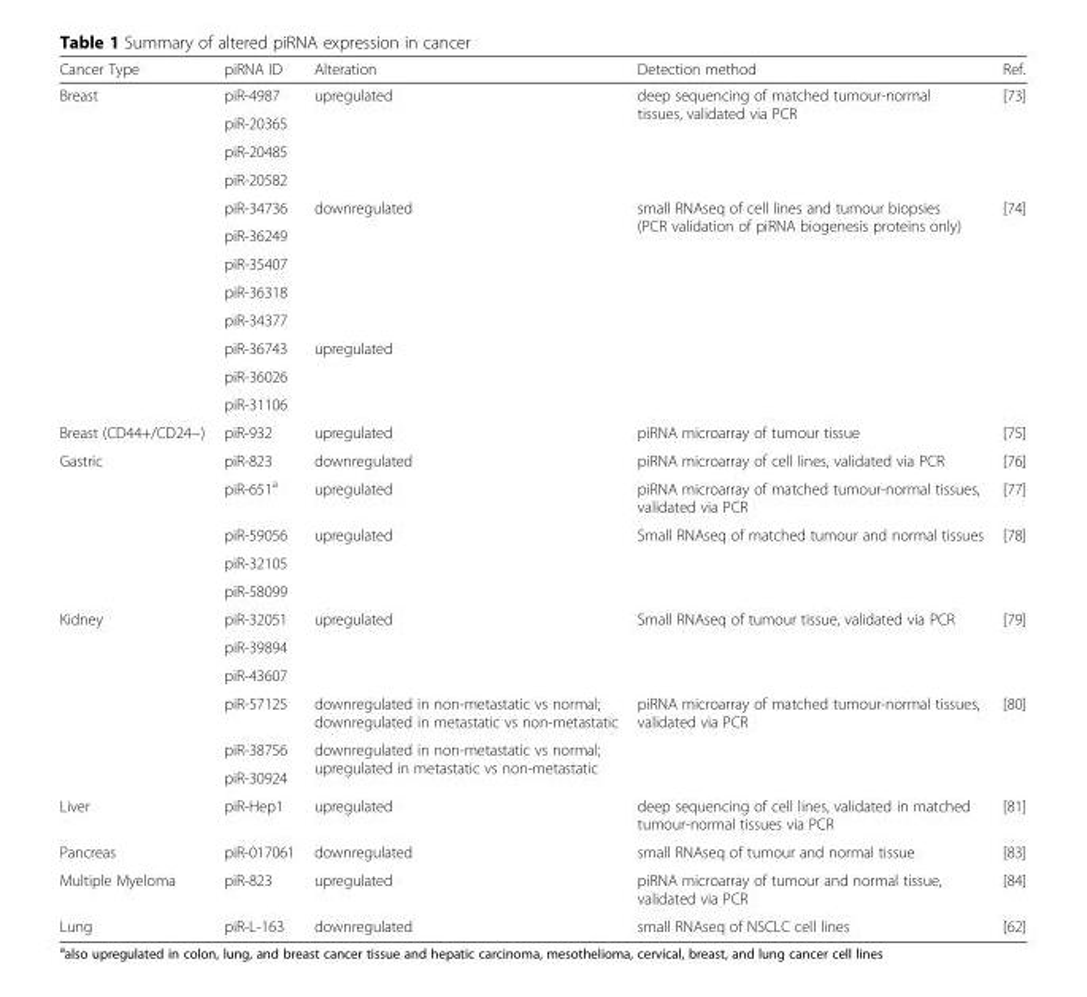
<table><thead><tr><td>Cancer Type</td><td>piRNA ID</td><td>Alteration</td><td>Detection method</td><td>Ref.</td></tr></thead><tbody><tr><td rowspan="12">Breast</td><td>piR-4987</td><td rowspan="4">upregulated</td><td rowspan="4">deep sequencing of matched tumour-normal tissues, validated via PCR</td><td rowspan="4">[73]</td></tr><tr><td>piR-20365</td></tr><tr><td>piR-20485</td></tr><tr><td>piR-20582</td></tr><tr><td>piR-34736</td><td rowspan="5">downregulated</td><td rowspan="8">small RNAseq of cell lines and tumour biopsies (PCR validation of piRNA biogenesis proteins only)</td><td rowspan="8">[74]</td></tr><tr><td>piR-36249</td></tr><tr><td>piR-35407</td></tr><tr><td>piR-36318</td></tr><tr><td>piR-34377</td></tr><tr><td>piR-36743</td><td rowspan="3">upregulated</td></tr><tr><td>piR-36026</td></tr><tr><td>piR-31106</td></tr><tr><td>Breast (CD44+/CD24−)</td><td>piR-932</td><td>upregulated</td><td>piRNA microarray of tumour tissue</td><td>[75]</td></tr><tr><td rowspan="5">Gastric</td><td>piR-823</td><td>downregulated</td><td>piRNA microarray of cell lines, validated via PCR</td><td>[76]</td></tr><tr><td>piR-651<sup>a</sup></td><td>upregulated</td><td>piRNA microarray of matched tumour-normal tissues, validated via PCR</td><td>[77]</td></tr><tr><td>piR-59056</td><td rowspan="3">upregulated</td><td rowspan="3">Small RNAseq of matched tumour and normal tissues</td><td rowspan="3">[78]</td></tr><tr><td>piR-32105</td></tr><tr><td>piR-58099</td></tr><tr><td rowspan="6">Kidney</td><td>piR-32051</td><td rowspan="3">upregulated</td><td rowspan="3">Small RNAseq of tumour tissue, validated via PCR</td><td rowspan="3">[79]</td></tr><tr><td>piR-39894</td></tr><tr><td>piR-43607</td></tr><tr><td>piR-57125</td><td>downregulated in non-metastatic vs normal; downregulated in metastatic vs non-metastatic</td><td rowspan="3">piRNA microarray of matched tumour-normal tissues, validated via PCR</td><td rowspan="3">[80]</td></tr><tr><td>piR-38756</td><td rowspan="2">downregulated in non-metastatic vs normal; upregulated in metastatic vs non-metastatic</td></tr><tr><td>piR-30924</td></tr><tr><td>Liver</td><td>piR-Hep1</td><td>upregulated</td><td>deep sequencing of cell lines, validated in matched tumour-normal tissues via PCR</td><td>[81]</td></tr><tr><td>Pancreas</td><td>piR-017061</td><td>downregulated</td><td>small RNAseq of tumour and normal tissue</td><td>[83]</td></tr><tr><td>Multiple Myeloma</td><td>piR-823</td><td>upregulated</td><td>piRNA microarray of tumour and normal tissue, validated via PCR</td><td>[84]</td></tr><tr><td>Lung</td><td>piR-L-163</td><td>downregulated</td><td>small RNAseq of NSCLC cell lines</td><td>[62]</td></tr></tbody></table>